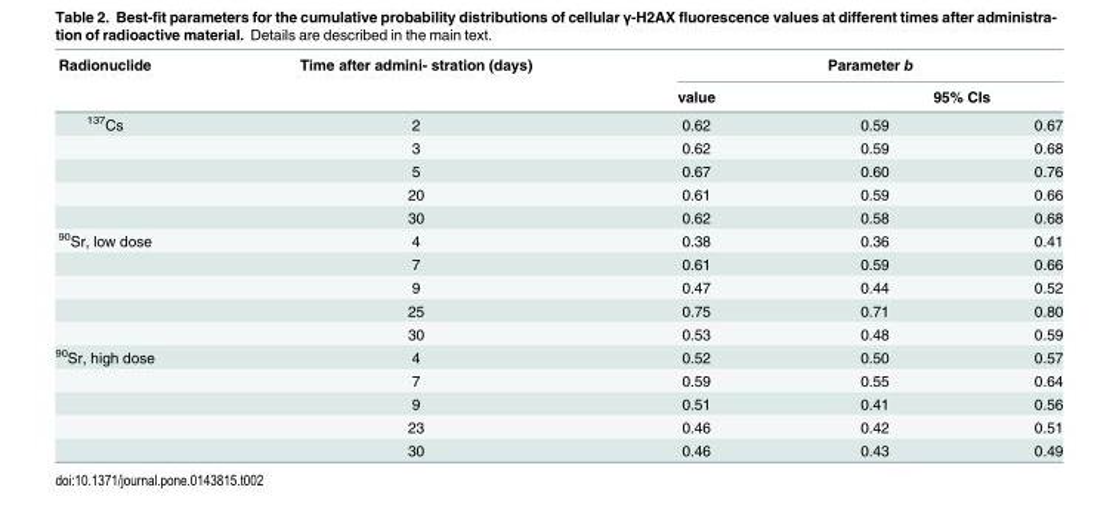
<table><thead><tr><td rowspan="3">Radionuclide <sup>137</sup>Cs</td><td rowspan="3">Time after admini- stration (days) 2</td><td colspan="3">Parameter b</td></tr><tr><td rowspan="2">value 0.62</td><td colspan="2">95% CIs</td></tr><tr><td>0.59</td><td>0.67</td></tr></thead><tbody><tr><td></td><td>3</td><td>0.62</td><td>0.59</td><td>0.68</td></tr><tr><td></td><td>5</td><td>0.67</td><td>0.60</td><td>0.76</td></tr><tr><td></td><td>20</td><td>0.61</td><td>0.59</td><td>0.66</td></tr><tr><td></td><td>30</td><td>0.62</td><td>0.58</td><td>0.68</td></tr><tr><td rowspan="5"><sup>90</sup>Sr, low dose</td><td>4</td><td>0.38</td><td>0.36</td><td>0.41</td></tr><tr><td>7</td><td>0.61</td><td>0.59</td><td>0.66</td></tr><tr><td>9</td><td>0.47</td><td>0.44</td><td>0.52</td></tr><tr><td>25</td><td>0.75</td><td>0.71</td><td>0.80</td></tr><tr><td>30</td><td>0.53</td><td>0.48</td><td>0.59</td></tr><tr><td rowspan="5"><sup>90</sup>Sr, high dose</td><td>4</td><td>0.52</td><td>0.50</td><td>0.57</td></tr><tr><td>7</td><td>0.59</td><td>0.55</td><td>0.64</td></tr><tr><td>9</td><td>0.51</td><td>0.41</td><td>0.56</td></tr><tr><td>23</td><td>0.46</td><td>0.42</td><td>0.51</td></tr><tr><td>30</td><td>0.46</td><td>0.43</td><td>0.49</td></tr></tbody></table>